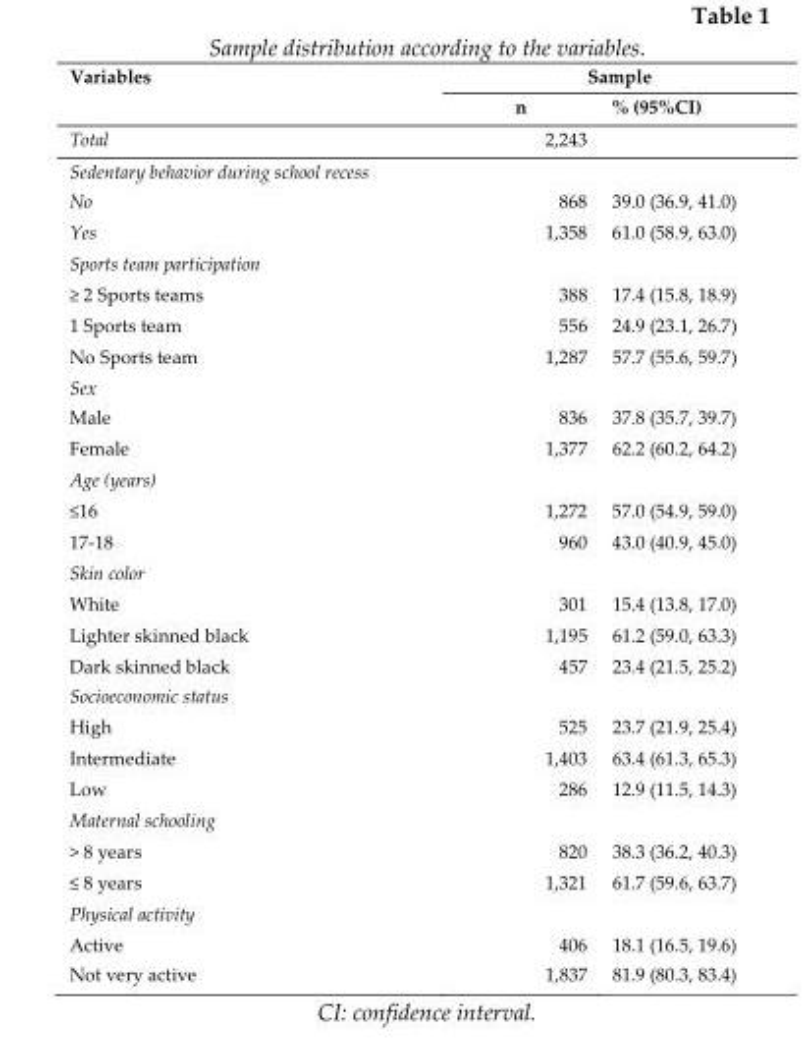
<table><thead><tr><td rowspan="2">Variables</td><td colspan="2">Sample</td></tr><tr><td>n</td><td>% (95%CI)</td></tr></thead><tbody><tr><td>Total</td><td>2,243</td><td></td></tr><tr><td colspan="3">Sedentary behavior during school recess</td></tr><tr><td>No</td><td>868</td><td>39.0 (36.9, 41.0)</td></tr><tr><td>Yes</td><td>1,358</td><td>61.0 (58.9, 63.0)</td></tr><tr><td colspan="3">Sports team participation</td></tr><tr><td>≥ 2 Sports teams</td><td>388</td><td>17.4 (15.8, 18.9)</td></tr><tr><td>1 Sports team</td><td>556</td><td>24.9 (23.1, 26.7)</td></tr><tr><td>No Sports team</td><td>1,287</td><td>57.7 (55.6, 59.7)</td></tr><tr><td colspan="3">Sex</td></tr><tr><td>Male</td><td>836</td><td>37.8 (35.7, 39.7)</td></tr><tr><td>Female</td><td>1,377</td><td>62.2 (60.2, 64.2)</td></tr><tr><td colspan="3">Age (years)</td></tr><tr><td>≤16</td><td>1,272</td><td>57.0 (54.9, 59.0)</td></tr><tr><td>17-18</td><td>960</td><td>43.0 (40.9, 45.0)</td></tr><tr><td colspan="3">Skin color</td></tr><tr><td>White</td><td>301</td><td>15.4 (13.8, 17.0)</td></tr><tr><td>Lighter skinned black</td><td>1,195</td><td>61.2 (59.0, 63.3)</td></tr><tr><td>Dark skinned black</td><td>457</td><td>23.4 (21.5, 25.2)</td></tr><tr><td colspan="3">Socioeconomic status</td></tr><tr><td>High</td><td>525</td><td>23.7 (21.9, 25.4)</td></tr><tr><td>Intermediate</td><td>1,403</td><td>63.4 (61.3, 65.3)</td></tr><tr><td>Low</td><td>286</td><td>12.9 (11.5, 14.3)</td></tr><tr><td colspan="3">Maternal schooling</td></tr><tr><td>&gt; 8 years</td><td>820</td><td>38.3 (36.2, 40.3)</td></tr><tr><td>≤ 8 years</td><td>1,321</td><td>61.7 (59.6, 63.7)</td></tr><tr><td colspan="3">Physical activity</td></tr><tr><td>Active</td><td>406</td><td>18.1 (16.5, 19.6)</td></tr><tr><td>Not very active</td><td>1,837</td><td>81.9 (80.3, 83.4)</td></tr></tbody></table>